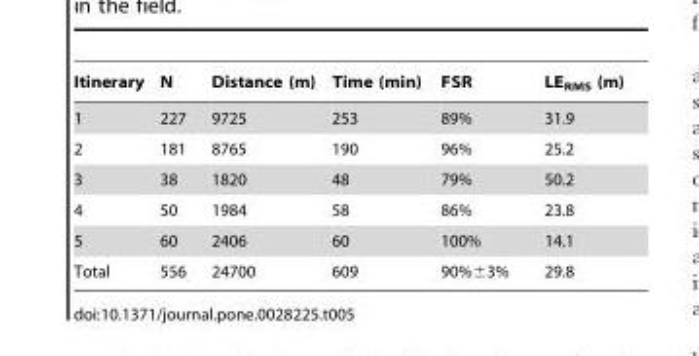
<table><thead><tr><td>Itinerary</td><td>N</td><td>Distance (m)</td><td>Time (min)</td><td>FSR</td><td>LE<sub>RMS</sub> (m)</td></tr></thead><tbody><tr><td>1</td><td>227</td><td>9725</td><td>253</td><td>89%</td><td>31.9</td></tr><tr><td>2</td><td>181</td><td>8765</td><td>190</td><td>96%</td><td>25.2</td></tr><tr><td>3</td><td>38</td><td>1820</td><td>48</td><td>79%</td><td>50.2</td></tr><tr><td>4</td><td>50</td><td>1984</td><td>58</td><td>86%</td><td>23.8</td></tr><tr><td>5</td><td>60</td><td>2406</td><td>60</td><td>100%</td><td>14.1</td></tr><tr><td>Total</td><td>556</td><td>24700</td><td>609</td><td>90%±3%</td><td>29.8</td></tr></tbody></table>